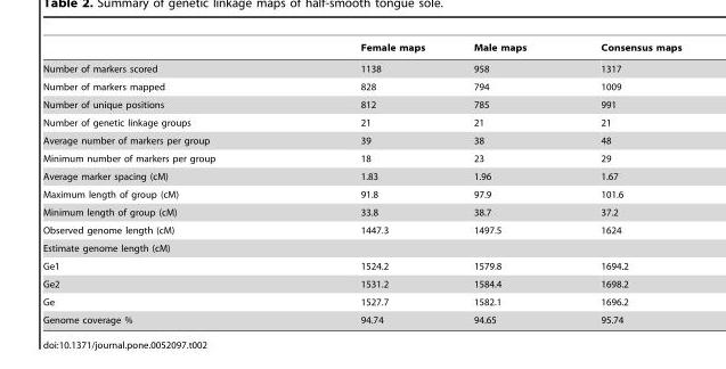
<table><thead><tr><td></td><td>Female maps</td><td>Male maps</td><td>Consensus maps</td></tr></thead><tbody><tr><td>Number of markers scored</td><td>1138</td><td>958</td><td>1317</td></tr><tr><td>Number of markers mapped</td><td>828</td><td>794</td><td>1009</td></tr><tr><td>Number of unique positions</td><td>812</td><td>785</td><td>991</td></tr><tr><td>Number of genetic linkage groups</td><td>21</td><td>21</td><td>21</td></tr><tr><td>Average number of markers per group</td><td>39</td><td>38</td><td>48</td></tr><tr><td>Minimum number of markers per group</td><td>18</td><td>23</td><td>29</td></tr><tr><td>Average marker spacing (cM)</td><td>1.83</td><td>1.96</td><td>1.67</td></tr><tr><td>Maximum length of group (cM)</td><td>91.8</td><td>97.9</td><td>101.6</td></tr><tr><td>Minimum length of group (cM)</td><td>33.8</td><td>38.7</td><td>37.2</td></tr><tr><td>Observed genome length (cM)</td><td>1447.3</td><td>1497.5</td><td>1624</td></tr><tr><td colspan="4">Estimate genome length (cM)</td></tr><tr><td>Ge1</td><td>1524.2</td><td>1579.8</td><td>1694.2</td></tr><tr><td>Ge2</td><td>1531.2</td><td>1584.4</td><td>1698.2</td></tr><tr><td>Ge</td><td>1527.7</td><td>1582.1</td><td>1696.2</td></tr><tr><td>Genome coverage %</td><td>94.74</td><td>94.65</td><td>95.74</td></tr></tbody></table>